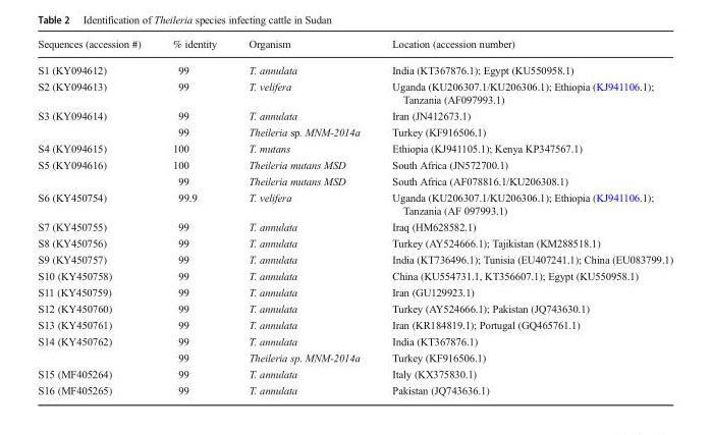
<table><thead><tr><td>Sequences (accession #)</td><td>% identity</td><td>Organism</td><td>Location (accession number)</td></tr></thead><tbody><tr><td>S1 (KY094612)</td><td>99</td><td>T. annulata</td><td>India (KT367876.1); Egypt (KU550958.1)</td></tr><tr><td>S2 (KY094613)</td><td>99</td><td>T. velifera</td><td>Uganda (KU206307.1/KU206306.1); Ethiopia (KJ941106.1); Tanzania (AF097993.1)</td></tr><tr><td rowspan="2">S3 (KY094614)</td><td>99</td><td>T. annulata</td><td>Iran (JN412673.1)</td></tr><tr><td>99</td><td>Theileria sp. MNM-2014a</td><td>Turkey (KF916506.1)</td></tr><tr><td>S4 (KY094615)</td><td>100</td><td>T. mutans</td><td>Ethiopia (KJ941105.1); Kenya KP347567.1)</td></tr><tr><td rowspan="2">S5 (KY094616)</td><td>100</td><td>Theileria mutans MSD</td><td>South Africa (JN572700.1)</td></tr><tr><td>99</td><td>Theileria mutans MSD</td><td>South Africa (AF078816.1/KU206308.1)</td></tr><tr><td>S6 (KY450754)</td><td>99.9</td><td>T. velifera</td><td>Uganda (KU206307.1/KU206306.1); Ethiopia (KJ941106.1); Tanzania (AF 097993.1)</td></tr><tr><td>S7 (KY450755)</td><td>99</td><td>T. annulata</td><td>Iraq (HM628582.1)</td></tr><tr><td>S8 (KY450756)</td><td>99</td><td>T. annulata</td><td>Turkey (AY524666.1); Tajikistan (KM288518.1)</td></tr><tr><td>S9 (KY450757)</td><td>99</td><td>T. annulata</td><td>India (KT736496.1); Tunisia (EU407241.1); China (EU083799.1)</td></tr><tr><td>S10 (KY450758)</td><td>99</td><td>T. annulata</td><td>China (KU554731.1, KT356607.1); Egypt (KU550958.1)</td></tr><tr><td>S11 (KY450759)</td><td>99</td><td>T. annulata</td><td>Iran (GU129923.1)</td></tr><tr><td>S12 (KY450760)</td><td>99</td><td>T. annulata</td><td>Turkey (AY524666.1); Pakistan (JQ743630.1)</td></tr><tr><td>S13 (KY450761)</td><td>99</td><td>T. annulata</td><td>Iran (KR184819.1); Portugal (GQ465761.1)</td></tr><tr><td rowspan="2">S14 (KY450762)</td><td>99</td><td>T. annulata</td><td>India (KT367876.1)</td></tr><tr><td>99</td><td>Theileria sp. MNM-2014a</td><td>Turkey (KF916506.1)</td></tr><tr><td>S15 (MF405264)</td><td>99</td><td>T. annulata</td><td>Italy (KX375830.1)</td></tr><tr><td>S16 (MF405265)</td><td>99</td><td>T. annulata</td><td>Pakistan (JQ743636.1)</td></tr></tbody></table>